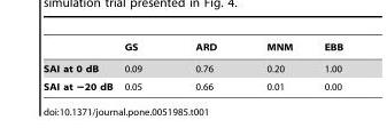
<table><thead><tr><td></td><td>GS</td><td>ARD</td><td>MNM</td><td>EBB</td></tr></thead><tbody><tr><td>SAI at 0 dB</td><td>0.09</td><td>0.76</td><td>0.20</td><td>1.00</td></tr><tr><td>SAI at −20 dB</td><td>0.05</td><td>0.66</td><td>0.01</td><td>0.00</td></tr></tbody></table>